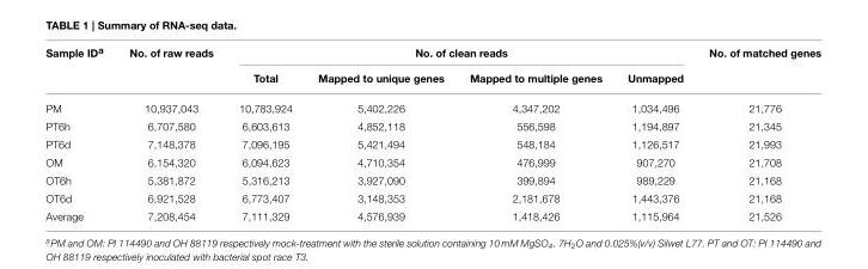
<table><thead><tr><td rowspan="2">Sample ID<sup>a</sup></td><td rowspan="2">No. of raw reads</td><td colspan="4">No. of clean reads</td><td rowspan="2">No. of matched genes</td></tr><tr><td>Total</td><td>Mapped to unique genes</td><td>Mapped to multiple genes</td><td>Unmapped</td></tr></thead><tbody><tr><td>PM</td><td>10,937,043</td><td>10,783,924</td><td>5,402,226</td><td>4,347,202</td><td>1,034,496</td><td>21,776</td></tr><tr><td>PT6h</td><td>6,707,580</td><td>6,603,613</td><td>4,852,118</td><td>556,598</td><td>1,194,897</td><td>21,345</td></tr><tr><td>PT6d</td><td>7,148,378</td><td>7,096,195</td><td>5,421,494</td><td>548,184</td><td>1,126,517</td><td>21,993</td></tr><tr><td>OM</td><td>6,154,320</td><td>6,094,623</td><td>4,710,354</td><td>476,999</td><td>907,270</td><td>21,708</td></tr><tr><td>OT6h</td><td>5,381,872</td><td>5,316,213</td><td>3,927,090</td><td>399,894</td><td>989,229</td><td>21,168</td></tr><tr><td>OT6d</td><td>6,921,528</td><td>6,773,407</td><td>3,148,353</td><td>2,181,678</td><td>1,443,376</td><td>21,168</td></tr><tr><td>Average</td><td>7,208,454</td><td>7,111,329</td><td>4,576,939</td><td>1,418,426</td><td>1,115,964</td><td>21,526</td></tr></tbody></table>